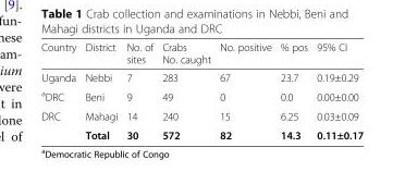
<table><thead><tr><td>Country</td><td>District</td><td>No. of sites</td><td>Crabs No. caught</td><td>No. positive</td><td>% pos</td><td>95% CI</td></tr></thead><tbody><tr><td>Uganda</td><td>Nebbi</td><td>7</td><td>283</td><td>67</td><td>23.7</td><td>0.19±0.29</td></tr><tr><td><sup>a</sup>DRC</td><td>Beni</td><td>9</td><td>49</td><td>0</td><td>0.0</td><td>0.00±0.00</td></tr><tr><td rowspan="2">DRC</td><td>Mahagi</td><td>14</td><td>240</td><td>15</td><td>6.25</td><td>0.03±0.09</td></tr><tr><td>Total</td><td>30</td><td>572</td><td>82</td><td>14.3</td><td>0.11±0.17</td></tr></tbody></table>